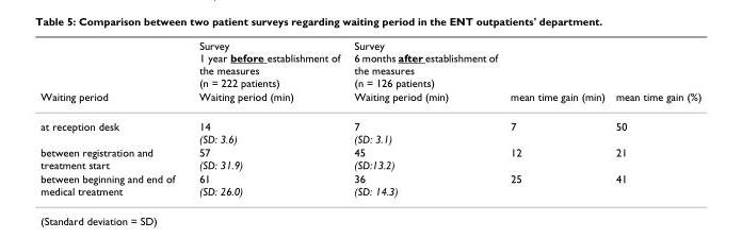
<table><thead><tr><td rowspan="2">Waiting period</td><td rowspan="2">Survey 1 year before establishment of the measures (n = 222 patients) Waiting period (min)</td><td rowspan="2">Survey 6 months after establishment of the measures (n = 126 patients) Waiting period (min)</td><td rowspan="2">mean time gain (min)</td><td rowspan="2">mean time gain (%)</td></tr><tr></tr></thead><tbody><tr><td>at reception desk</td><td>14 (SD: 3.6)</td><td>7 (SD: 3.1)</td><td>7</td><td>50</td></tr><tr><td>between registration and treatment start</td><td>57 (SD: 31.9)</td><td>45 (SD:13.2)</td><td>12</td><td>21</td></tr><tr><td>between beginning and end of medical treatment</td><td>61 (SD: 26.0)</td><td>36 (SD: 14.3)</td><td>25</td><td>41</td></tr></tbody></table>